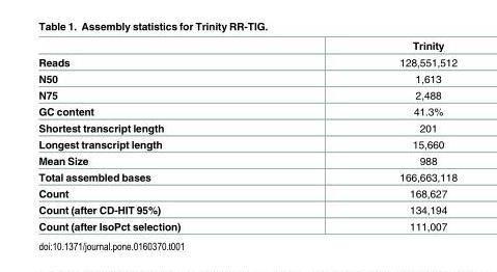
<table><thead><tr><td></td><td>Trinity</td></tr></thead><tbody><tr><td>Reads</td><td>128,551,512</td></tr><tr><td>N50</td><td>1,613</td></tr><tr><td>N75</td><td>2,488</td></tr><tr><td>GC content</td><td>41.3%</td></tr><tr><td>Shortest transcript length</td><td>201</td></tr><tr><td>Longest transcript length</td><td>15,660</td></tr><tr><td>Mean Size</td><td>988</td></tr><tr><td>Total assembled bases</td><td>166,663,118</td></tr><tr><td>Count</td><td>168,627</td></tr><tr><td>Count (after CD-HIT 95%)</td><td>134,194</td></tr><tr><td>Count (after IsoPct selection)</td><td>111,007</td></tr></tbody></table>